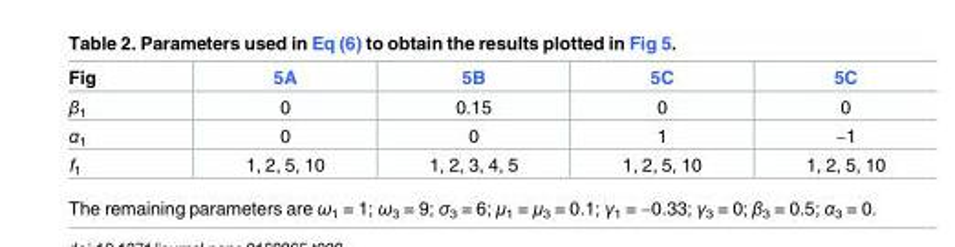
<table><thead><tr><td>Fig</td><td>5A</td><td>5B</td><td>5C</td><td>5C</td></tr></thead><tbody><tr><td>β<sub>1</sub></td><td>0</td><td>0.15</td><td>0</td><td>0</td></tr><tr><td>α<sub>1</sub></td><td>0</td><td>0</td><td>1</td><td>−1</td></tr><tr><td>f<sub>1</sub></td><td>1, 2, 5, 10</td><td>1, 2, 3, 4, 5</td><td>1, 2, 5, 10</td><td>1, 2, 5, 10</td></tr></tbody></table>